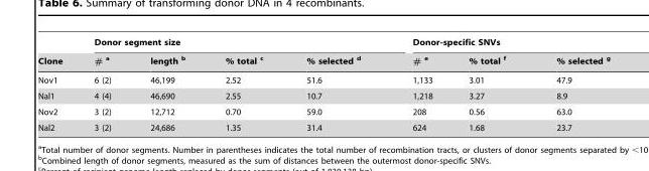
<table><thead><tr><td rowspan="2">Clone</td><td colspan="4">Donor segment size</td><td colspan="3">Donor-specific SNVs</td></tr><tr><td># a</td><td>length b</td><td>% total c</td><td>% selected d</td><td># e</td><td>% total f</td><td>% selected g</td></tr></thead><tbody><tr><td>Nov1</td><td>6 (2)</td><td>46,199</td><td>2.52</td><td>51.6</td><td>1,133</td><td>3.01</td><td>47.9</td></tr><tr><td>Nal1</td><td>4 (4)</td><td>46,690</td><td>2.55</td><td>10.7</td><td>1,218</td><td>3.27</td><td>8.9</td></tr><tr><td>Nov2</td><td>3 (2)</td><td>12,712</td><td>0.70</td><td>59.0</td><td>208</td><td>0.56</td><td>63.0</td></tr><tr><td>Nal2</td><td>3 (2)</td><td>24,686</td><td>1.35</td><td>31.4</td><td>624</td><td>1.68</td><td>23.7</td></tr></tbody></table>